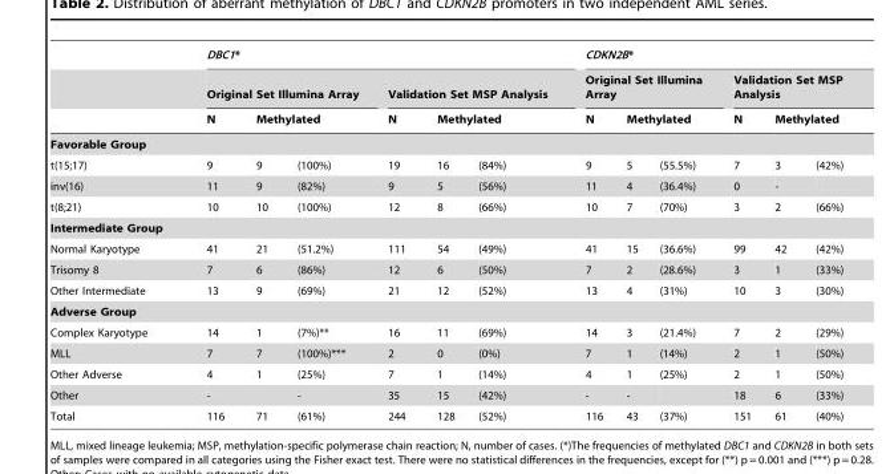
<table><thead><tr><td rowspan="3"></td><td colspan="6">DBC1*</td><td colspan="6">CDKN2B*</td></tr><tr><td colspan="3">Original Set Illumina Array</td><td colspan="3">Validation Set MSP Analysis</td><td colspan="3">Original Set Illumina Array</td><td colspan="3">Validation Set MSP Analysis</td></tr><tr><td>N</td><td colspan="2">Methylated</td><td>N</td><td colspan="2">Methylated</td><td>N</td><td colspan="2">Methylated</td><td>N</td><td colspan="2">Methylated</td></tr><tr><td colspan="13">Favorable Group</td></tr><tr><td>t(15;17)</td><td>9</td><td>9</td><td>(100%)</td><td>19</td><td>16</td><td>(84%)</td><td>9</td><td>5</td><td>(55.5%)</td><td>7</td><td>3</td><td>(42%)</td></tr></thead><tbody><tr><td>inv(16)</td><td>11</td><td>9</td><td>(82%)</td><td>9</td><td>5</td><td>(56%)</td><td>11</td><td>4</td><td>(36.4%)</td><td>0</td><td>-</td><td></td></tr><tr><td>t(8;21)</td><td>10</td><td>10</td><td>(100%)</td><td>12</td><td>8</td><td>(66%)</td><td>10</td><td>7</td><td>(70%)</td><td>3</td><td>2</td><td>(66%)</td></tr><tr><td colspan="13">Intermediate Group</td></tr><tr><td>Normal Karyotype</td><td>41</td><td>21</td><td>(51.2%)</td><td>111</td><td>54</td><td>(49%)</td><td>41</td><td>15</td><td>(36.6%)</td><td>99</td><td>42</td><td>(42%)</td></tr><tr><td>Trisomy 8</td><td>7</td><td>6</td><td>(86%)</td><td>12</td><td>6</td><td>(50%)</td><td>7</td><td>2</td><td>(28.6%)</td><td>3</td><td>1</td><td>(33%)</td></tr><tr><td>Other Intermediate</td><td>13</td><td>9</td><td>(69%)</td><td>21</td><td>12</td><td>(52%)</td><td>13</td><td>4</td><td>(31%)</td><td>10</td><td>3</td><td>(30%)</td></tr><tr><td colspan="13">Adverse Group</td></tr><tr><td>Complex Karyotype</td><td>14</td><td>1</td><td>(7%)**</td><td>16</td><td>11</td><td>(69%)</td><td>14</td><td>3</td><td>(21.4%)</td><td>7</td><td>2</td><td>(29%)</td></tr><tr><td>MLL</td><td>7</td><td>7</td><td>(100%)***</td><td>2</td><td>0</td><td>(0%)</td><td>7</td><td>1</td><td>(14%)</td><td>2</td><td>1</td><td>(50%)</td></tr><tr><td>Other Adverse</td><td>4</td><td>1</td><td>(25%)</td><td>7</td><td>1</td><td>(14%)</td><td>4</td><td>1</td><td>(25%)</td><td>2</td><td>1</td><td>(50%)</td></tr><tr><td>Other</td><td>-</td><td></td><td>-</td><td>35</td><td>15</td><td>(42%)</td><td>-</td><td>-</td><td></td><td>18</td><td>6</td><td>(33%)</td></tr><tr><td>Total</td><td>116</td><td>71</td><td>(61%)</td><td>244</td><td>128</td><td>(52%)</td><td>116</td><td>43</td><td>(37%)</td><td>151</td><td>61</td><td>(40%)</td></tr></tbody></table>